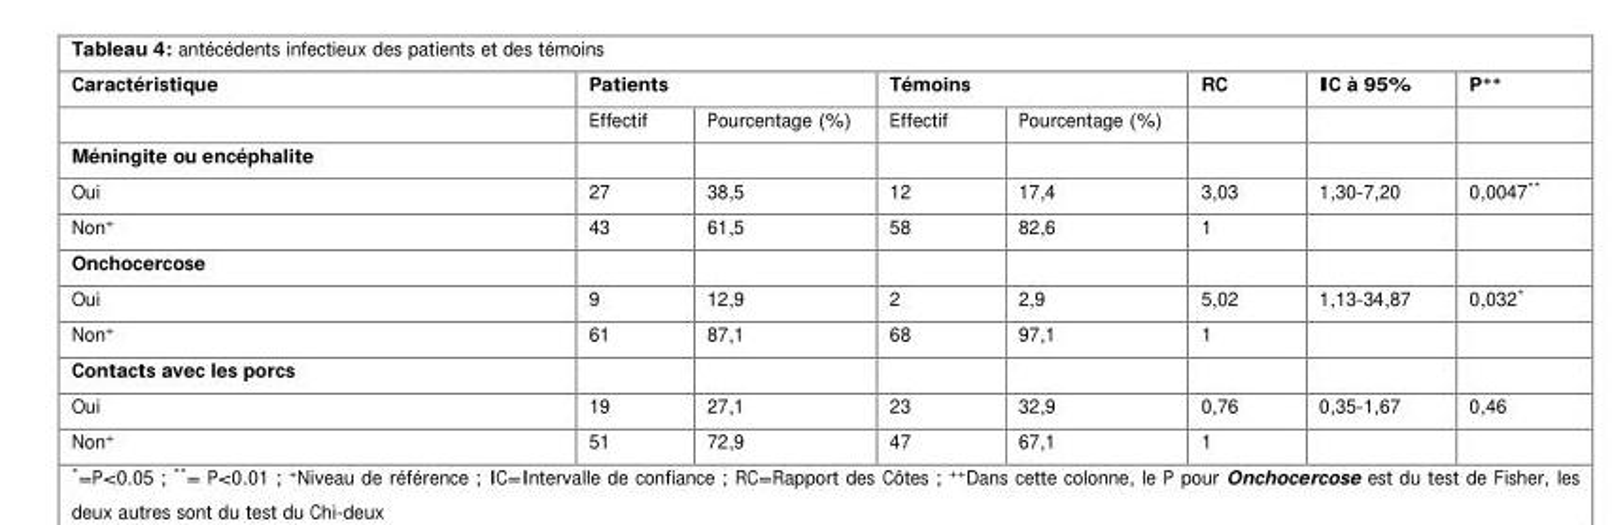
<table><thead><tr><td rowspan="2">Caractéristique</td><td colspan="2">Patients</td><td colspan="2">Témoins</td><td rowspan="2">RC</td><td rowspan="2">IC à 95%</td><td rowspan="2">P++</td></tr><tr><td>Effectif</td><td>Pourcentage (%)</td><td>Effectif</td><td>Pourcentage (%)</td></tr></thead><tbody><tr><td colspan="8">Méningite ou encéphalite</td></tr><tr><td>Oui</td><td>27</td><td>38,5</td><td>12</td><td>17,4</td><td>3,03</td><td>1,30-7,20</td><td>0,0047**</td></tr><tr><td>Non+</td><td>43</td><td>61,5</td><td>58</td><td>82,6</td><td>1</td><td></td><td></td></tr><tr><td colspan="8">Onchocercose</td></tr><tr><td>Oui</td><td>9</td><td>12,9</td><td>2</td><td>2,9</td><td>5,02</td><td>1,13-34,87</td><td>0,032*</td></tr><tr><td>Non+</td><td>61</td><td>87,1</td><td>68</td><td>97,1</td><td>1</td><td></td><td></td></tr><tr><td colspan="8">Contacts avec les porcs</td></tr><tr><td>Oui</td><td>19</td><td>27,1</td><td>23</td><td>32,9</td><td>0,76</td><td>0,35-1,67</td><td>0,46</td></tr><tr><td>Non+</td><td>51</td><td>72,9</td><td>47</td><td>67,1</td><td>1</td><td></td><td></td></tr></tbody></table>